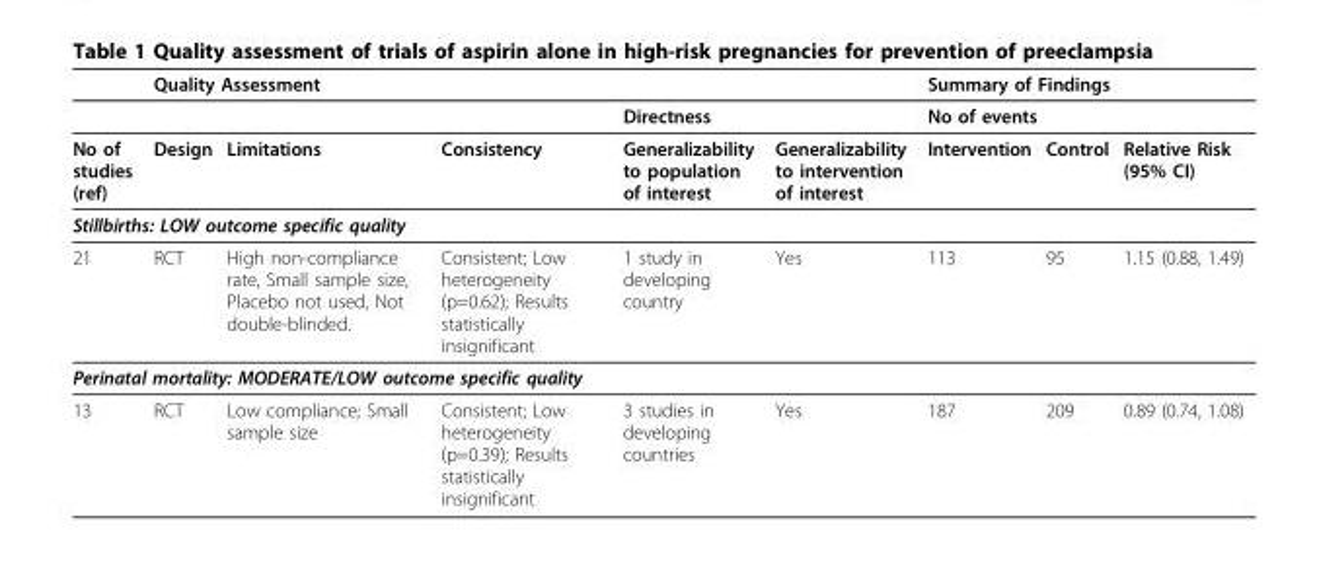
<table><thead><tr><td rowspan="3">No of studies (ref)</td><td colspan="5">Quality Assessment</td><td colspan="3">Summary of Findings</td></tr><tr><td rowspan="2">Design</td><td rowspan="2">Limitations</td><td rowspan="2">Consistency</td><td colspan="2">Directness</td><td colspan="2">No of events</td><td rowspan="2">Relative Risk (95% CI)</td></tr><tr><td>Generalizability to population of interest</td><td>Generalizability to intervention of interest</td><td>Intervention</td><td>Control</td></tr></thead><tbody><tr><td colspan="9">Stillbirths: LOW outcome specific quality</td></tr><tr><td>21</td><td>RCT</td><td>High non-compliance rate, Small sample size, Placebo not used, Not double-blinded.</td><td>Consistent; Low heterogeneity (p=0.62); Results statistically insignificant</td><td>1 study in developing country</td><td>Yes</td><td>113</td><td>95</td><td>1.15 (0.88, 1.49)</td></tr><tr><td colspan="9">Perinatal mortality: MODERATE/LOW outcome specific quality</td></tr><tr><td>13</td><td>RCT</td><td>Low compliance; Small sample size</td><td>Consistent; Low heterogeneity (p=0.39); Results statistically insignificant</td><td>3 studies in developing countries</td><td>Yes</td><td>187</td><td>209</td><td>0.89 (0.74, 1.08)</td></tr></tbody></table>